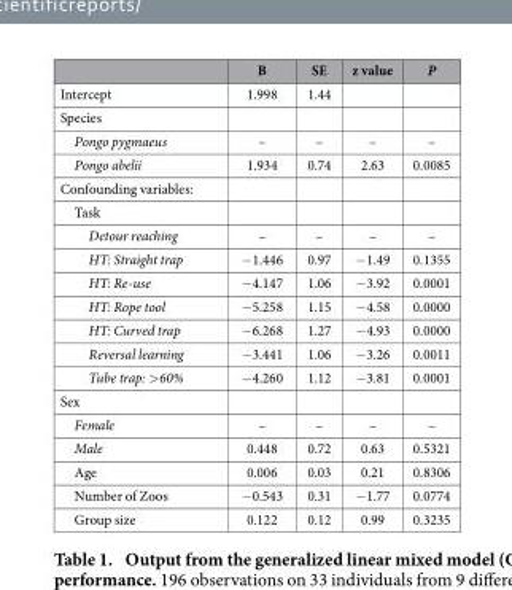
<table><thead><tr><td></td><td>B</td><td>SE</td><td>z value</td><td>P</td></tr></thead><tbody><tr><td>Intercept</td><td>1.998</td><td>1.44</td><td></td><td></td></tr><tr><td colspan="5">Species</td></tr><tr><td>Pongo pygmaeus</td><td>–</td><td>–</td><td>–</td><td>–</td></tr><tr><td>Pongo abelii</td><td>1.934</td><td>0.74</td><td>2.63</td><td>0.0085</td></tr><tr><td colspan="5">Confounding variables:</td></tr><tr><td colspan="5">Task</td></tr><tr><td>Detour reaching</td><td>–</td><td>–</td><td>–</td><td>–</td></tr><tr><td>HT: Straight trap</td><td>−1.446</td><td>0.97</td><td>−1.49</td><td>0.1355</td></tr><tr><td>HT: Re-use</td><td>−4.147</td><td>1.06</td><td>−3.92</td><td>0.0001</td></tr><tr><td>HT: Rope tool</td><td>−5.258</td><td>1.15</td><td>−4.58</td><td>0.0000</td></tr><tr><td>HT: Curved trap</td><td>−6.268</td><td>1.27</td><td>−4.93</td><td>0.0000</td></tr><tr><td>Reversal learning</td><td>−3.441</td><td>1.06</td><td>−3.26</td><td>0.0011</td></tr><tr><td>Tube trap: &gt;60%</td><td>−4.260</td><td>1.12</td><td>−3.81</td><td>0.0001</td></tr><tr><td colspan="5">Sex</td></tr><tr><td>Female</td><td>–</td><td>–</td><td>–</td><td>–</td></tr><tr><td>Male</td><td>0.448</td><td>0.72</td><td>0.63</td><td>0.5321</td></tr><tr><td>Age</td><td>0.006</td><td>0.03</td><td>0.21</td><td>0.8306</td></tr><tr><td>Number of Zoos</td><td>−0.543</td><td>0.31</td><td>−1.77</td><td>0.0774</td></tr><tr><td>Group size</td><td>0.122</td><td>0.12</td><td>0.99</td><td>0.3235</td></tr></tbody></table>